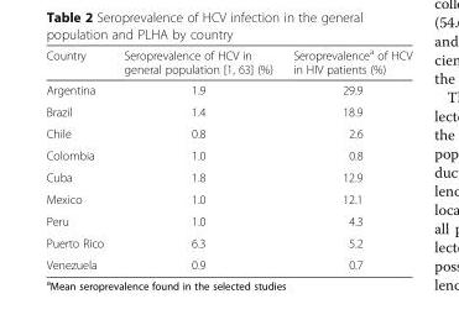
<table><thead><tr><td>Country</td><td>Seroprevalence of HCV in general population [1, 63] (%)</td><td>Seroprevalence<sup>a</sup> of HCV in HIV patients (%)</td></tr></thead><tbody><tr><td>Argentina</td><td>1.9</td><td>29.9</td></tr><tr><td>Brazil</td><td>1.4</td><td>18.9</td></tr><tr><td>Chile</td><td>0.8</td><td>2.6</td></tr><tr><td>Colombia</td><td>1.0</td><td>0.8</td></tr><tr><td>Cuba</td><td>1.8</td><td>12.9</td></tr><tr><td>Mexico</td><td>1.0</td><td>12.1</td></tr><tr><td>Peru</td><td>1.0</td><td>4.3</td></tr><tr><td>Puerto Rico</td><td>6.3</td><td>5.2</td></tr><tr><td>Venezuela</td><td>0.9</td><td>0.7</td></tr></tbody></table>